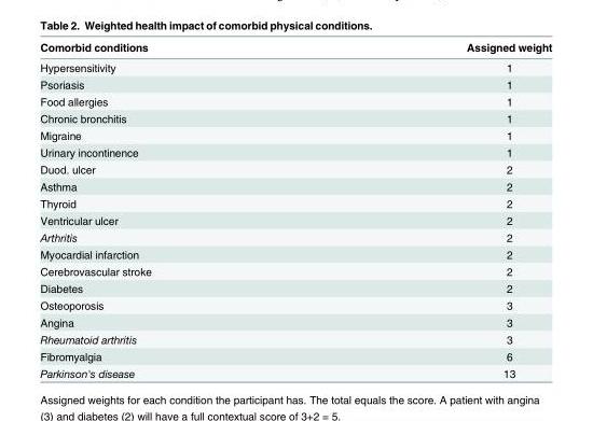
<table><thead><tr><td>Comorbid conditions</td><td>Assigned weight</td></tr></thead><tbody><tr><td>Hypersensitivity</td><td>1</td></tr><tr><td>Psoriasis</td><td>1</td></tr><tr><td>Food allergies</td><td>1</td></tr><tr><td>Chronic bronchitis</td><td>1</td></tr><tr><td>Migraine</td><td>1</td></tr><tr><td>Urinary incontinence</td><td>1</td></tr><tr><td>Duod. ulcer</td><td>2</td></tr><tr><td>Asthma</td><td>2</td></tr><tr><td>Thyroid</td><td>2</td></tr><tr><td>Ventricular ulcer</td><td>2</td></tr><tr><td>Arthritis</td><td>2</td></tr><tr><td>Myocardial infarction</td><td>2</td></tr><tr><td>Cerebrovascular stroke</td><td>2</td></tr><tr><td>Diabetes</td><td>2</td></tr><tr><td>Osteoporosis</td><td>3</td></tr><tr><td>Angina</td><td>3</td></tr><tr><td>Rheumatoid arthritis</td><td>3</td></tr><tr><td>Fibromyalgia</td><td>6</td></tr><tr><td>Parkinson&#x27;s disease</td><td>13</td></tr></tbody></table>